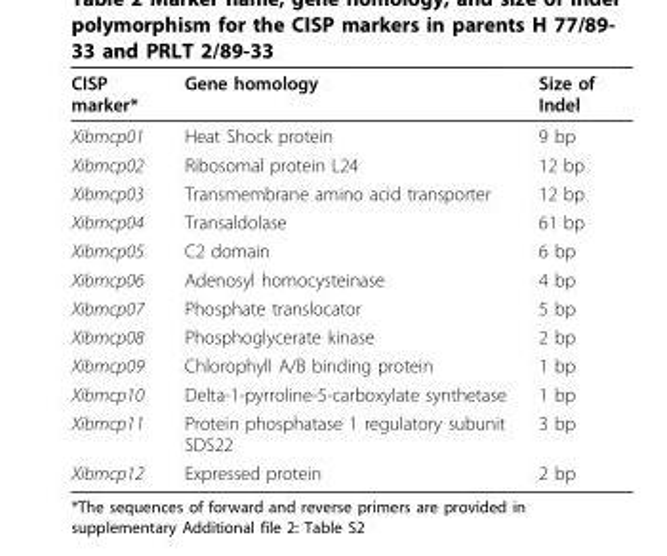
<table><thead><tr><td>CISP marker*</td><td>Gene homology</td><td>Size of Indel</td></tr></thead><tbody><tr><td>Xibmcp01</td><td>Heat Shock protein</td><td>9 bp</td></tr><tr><td>Xibmcp02</td><td>Ribosomal protein L24</td><td>12 bp</td></tr><tr><td>Xibmcp03</td><td>Transmembrane amino acid transporter</td><td>12 bp</td></tr><tr><td>Xibmcp04</td><td>Transaldolase</td><td>61 bp</td></tr><tr><td>Xibmcp05</td><td>C2 domain</td><td>6 bp</td></tr><tr><td>Xibmcp06</td><td>Adenosyl homocysteinase</td><td>4 bp</td></tr><tr><td>Xibmcp07</td><td>Phosphate translocator</td><td>5 bp</td></tr><tr><td>Xibmcp08</td><td>Phosphoglycerate kinase</td><td>2 bp</td></tr><tr><td>Xibmcp09</td><td>Chlorophyll A/B binding protein</td><td>1 bp</td></tr><tr><td>Xibmcp10</td><td>Delta-1-pyrroline-5-carboxylate synthetase</td><td>1 bp</td></tr><tr><td>Xibmcp11</td><td>Protein phosphatase 1 regulatory subunit SDS22</td><td>3 bp</td></tr><tr><td>Xibmcp12</td><td>Expressed protein</td><td>2 bp</td></tr></tbody></table>